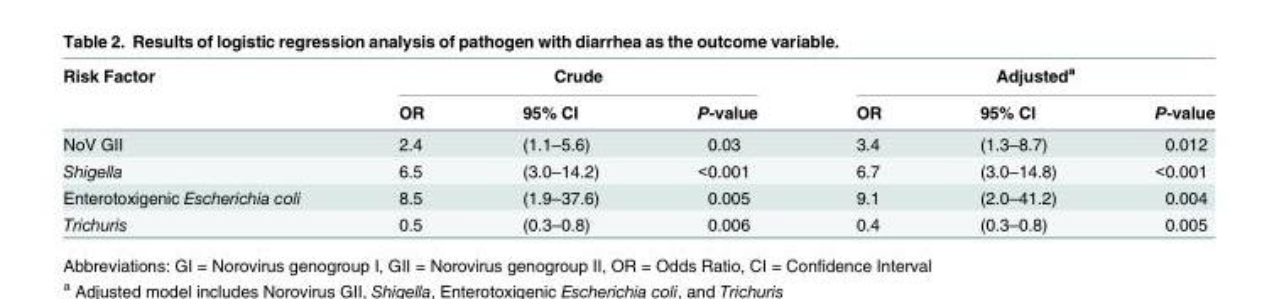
<table><thead><tr><td rowspan="2">Risk Factor</td><td colspan="3">Crude</td><td colspan="3">Adjusted<sup>a</sup></td></tr><tr><td>OR</td><td>95% CI</td><td>P-value</td><td>OR</td><td>95% CI</td><td>P-value</td></tr></thead><tbody><tr><td>NoV GII</td><td>2.4</td><td>(1.1–5.6)</td><td>0.03</td><td>3.4</td><td>(1.3–8.7)</td><td>0.012</td></tr><tr><td>Shigella</td><td>6.5</td><td>(3.0–14.2)</td><td>&lt;0.001</td><td>6.7</td><td>(3.0–14.8)</td><td>&lt;0.001</td></tr><tr><td>Enterotoxigenic Escherichia coli</td><td>8.5</td><td>(1.9–37.6)</td><td>0.005</td><td>9.1</td><td>(2.0–41.2)</td><td>0.004</td></tr><tr><td>Trichuris</td><td>0.5</td><td>(0.3–0.8)</td><td>0.006</td><td>0.4</td><td>(0.3–0.8)</td><td>0.005</td></tr></tbody></table>